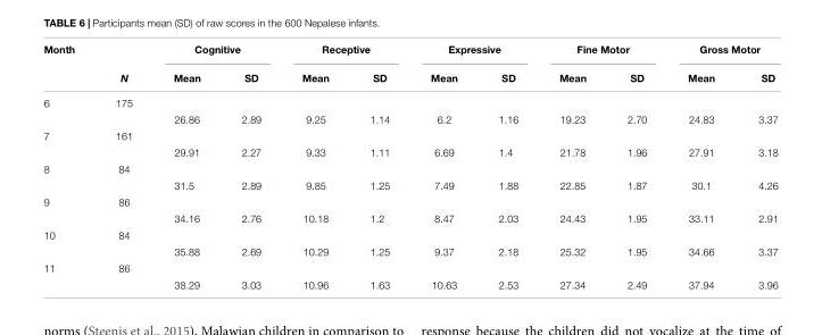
<table><thead><tr><td rowspan="2">Month</td><td rowspan="2">N</td><td colspan="2">Cognitive</td><td colspan="2">Receptive</td><td colspan="2">Expressive</td><td colspan="2">Fine Motor</td><td colspan="2">Gross Motor</td></tr><tr><td>Mean</td><td>SD</td><td>Mean</td><td>SD</td><td>Mean</td><td>SD</td><td>Mean</td><td>SD</td><td>Mean</td><td>SD</td></tr></thead><tbody><tr><td rowspan="2">6</td><td>175</td><td></td><td></td><td></td><td></td><td></td><td></td><td></td><td></td><td></td><td></td></tr><tr><td></td><td>26.86</td><td>2.89</td><td>9.25</td><td>1.14</td><td>6.2</td><td>1.16</td><td>19.23</td><td>2.70</td><td>24.83</td><td>3.37</td></tr><tr><td rowspan="2">7</td><td>161</td><td></td><td></td><td></td><td></td><td></td><td></td><td></td><td></td><td></td><td></td></tr><tr><td></td><td>29.91</td><td>2.27</td><td>9.33</td><td>1.11</td><td>6.69</td><td>1.4</td><td>21.78</td><td>1.96</td><td>27.91</td><td>3.18</td></tr><tr><td rowspan="2">8</td><td>84</td><td></td><td></td><td></td><td></td><td></td><td></td><td></td><td></td><td></td><td></td></tr><tr><td></td><td>31.5</td><td>2.89</td><td>9.85</td><td>1.25</td><td>7.49</td><td>1.88</td><td>22.85</td><td>1.87</td><td>30.1</td><td>4.26</td></tr><tr><td rowspan="2">9</td><td>86</td><td></td><td></td><td></td><td></td><td></td><td></td><td></td><td></td><td></td><td></td></tr><tr><td></td><td>34.16</td><td>2.76</td><td>10.18</td><td>1.2</td><td>8.47</td><td>2.03</td><td>24.43</td><td>1.95</td><td>33.11</td><td>2.91</td></tr><tr><td rowspan="2">10</td><td>84</td><td></td><td></td><td></td><td></td><td></td><td></td><td></td><td></td><td></td><td></td></tr><tr><td></td><td>35.88</td><td>2.69</td><td>10.29</td><td>1.25</td><td>9.37</td><td>2.18</td><td>25.32</td><td>1.95</td><td>34.66</td><td>3.37</td></tr><tr><td rowspan="2">11</td><td>86</td><td></td><td></td><td></td><td></td><td></td><td></td><td></td><td></td><td></td><td></td></tr><tr><td></td><td>38.29</td><td>3.03</td><td>10.96</td><td>1.63</td><td>10.63</td><td>2.53</td><td>27.34</td><td>2.49</td><td>37.94</td><td>3.96</td></tr></tbody></table>